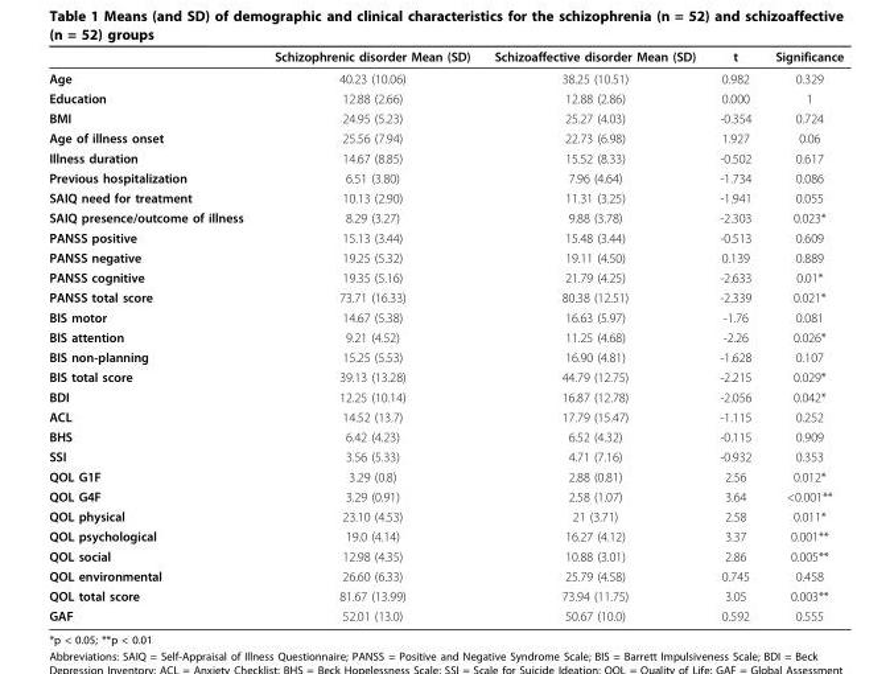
<table><thead><tr><td></td><td>Schizophrenic disorder Mean (SD)</td><td>Schizoaffective disorder Mean (SD)</td><td>t</td><td>Significance</td></tr></thead><tbody><tr><td>Age</td><td>40.23 (10.06)</td><td>38.25 (10.51)</td><td>0.982</td><td>0.329</td></tr><tr><td>Education</td><td>12.88 (2.66)</td><td>12.88 (2.86)</td><td>0.000</td><td>1</td></tr><tr><td>BMI</td><td>24.95 (5.23)</td><td>25.27 (4.03)</td><td>-0.354</td><td>0.724</td></tr><tr><td>Age of illness onset</td><td>25.56 (7.94)</td><td>22.73 (6.98)</td><td>1.927</td><td>0.06</td></tr><tr><td>Illness duration</td><td>14.67 (8.85)</td><td>15.52 (8.33)</td><td>-0.502</td><td>0.617</td></tr><tr><td>Previous hospitalization</td><td>6.51 (3.80)</td><td>7.96 (4.64)</td><td>-1.734</td><td>0.086</td></tr><tr><td>SAIQ need for treatment</td><td>10.13 (2.90)</td><td>11.31 (3.25)</td><td>-1.941</td><td>0.055</td></tr><tr><td>SAIQ presence/outcome of illness</td><td>8.29 (3.27)</td><td>9.88 (3.78)</td><td>-2.303</td><td>0.023*</td></tr><tr><td>PANSS positive</td><td>15.13 (3.44)</td><td>15.48 (3.44)</td><td>-0.513</td><td>0.609</td></tr><tr><td>PANSS negative</td><td>19.25 (5.32)</td><td>19.11 (4.50)</td><td>0.139</td><td>0.889</td></tr><tr><td>PANSS cognitive</td><td>19.35 (5.16)</td><td>21.79 (4.25)</td><td>-2.633</td><td>0.01*</td></tr><tr><td>PANSS total score</td><td>73.71 (16.33)</td><td>80.38 (12.51)</td><td>-2.339</td><td>0.021*</td></tr><tr><td>BIS motor</td><td>14.67 (5.38)</td><td>16.63 (5.97)</td><td>-1.76</td><td>0.081</td></tr><tr><td>BIS attention</td><td>9.21 (4.52)</td><td>11.25 (4.68)</td><td>-2.26</td><td>0.026*</td></tr><tr><td>BIS non-planning</td><td>15.25 (5.53)</td><td>16.90 (4.81)</td><td>-1.628</td><td>0.107</td></tr><tr><td>BIS total score</td><td>39.13 (13.28)</td><td>44.79 (12.75)</td><td>-2.215</td><td>0.029*</td></tr><tr><td>BDI</td><td>12.25 (10.14)</td><td>16.87 (12.78)</td><td>-2.056</td><td>0.042*</td></tr><tr><td>ACL</td><td>14.52 (13.7)</td><td>17.79 (15.47)</td><td>-1.115</td><td>0.252</td></tr><tr><td>BHS</td><td>6.42 (4.23)</td><td>6.52 (4.32)</td><td>-0.115</td><td>0.909</td></tr><tr><td>SSI</td><td>3.56 (5.33)</td><td>4.71 (7.16)</td><td>-0.932</td><td>0.353</td></tr><tr><td>QOL G1F</td><td>3.29 (0.8)</td><td>2.88 (0.81)</td><td>2.56</td><td>0.012*</td></tr><tr><td>QOL G4F</td><td>3.29 (0.91)</td><td>2.58 (1.07)</td><td>3.64</td><td>&lt;0.001**</td></tr><tr><td>QOL physical</td><td>23.10 (4.53)</td><td>21 (3.71)</td><td>2.58</td><td>0.011*</td></tr><tr><td>QOL psychological</td><td>19.0 (4.14)</td><td>16.27 (4.12)</td><td>3.37</td><td>0.001**</td></tr><tr><td>QOL social</td><td>12.98 (4.35)</td><td>10.88 (3.01)</td><td>2.86</td><td>0.005**</td></tr><tr><td>QOL environmental</td><td>26.60 (6.33)</td><td>25.79 (4.58)</td><td>0.745</td><td>0.458</td></tr><tr><td>QOL total score</td><td>81.67 (13.99)</td><td>73.94 (11.75)</td><td>3.05</td><td>0.003**</td></tr><tr><td>GAF</td><td>52.01 (13.0)</td><td>50.67 (10.0)</td><td>0.592</td><td>0.555</td></tr></tbody></table>